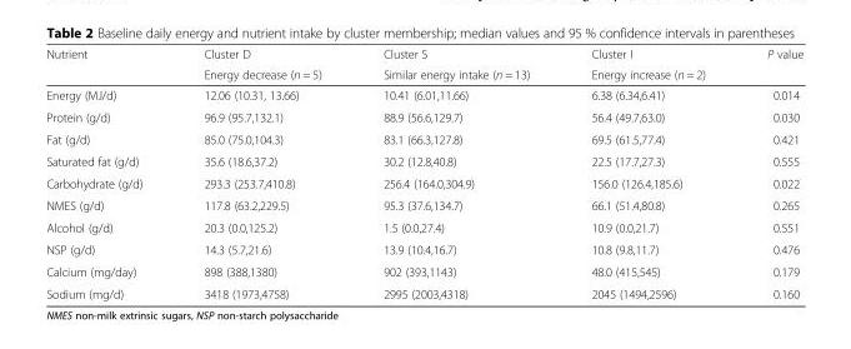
<table><thead><tr><td rowspan="2">Nutrient</td><td rowspan="2">Cluster D Energy decrease (n = 5)</td><td rowspan="2">Cluster S Similar energy intake (n = 13)</td><td rowspan="2">Cluster I Energy increase (n = 2)</td><td rowspan="2">P value</td></tr><tr></tr></thead><tbody><tr><td>Energy (MJ/d)</td><td>12.06 (10.31, 13.66)</td><td>10.41 (6.01,11.66)</td><td>6.38 (6.34,6.41)</td><td>0.014</td></tr><tr><td>Protein (g/d)</td><td>96.9 (95.7,132.1)</td><td>88.9 (56.6,129.7)</td><td>56.4 (49.7,63.0)</td><td>0.030</td></tr><tr><td>Fat (g/d)</td><td>85.0 (75.0,104.3)</td><td>83.1 (66.3,127.8)</td><td>69.5 (61.5,77.4)</td><td>0.421</td></tr><tr><td>Saturated fat (g/d)</td><td>35.6 (18.6,37.2)</td><td>30.2 (12.8,40.8)</td><td>22.5 (17.7,27.3)</td><td>0.555</td></tr><tr><td>Carbohydrate (g/d)</td><td>293.3 (253.7,410.8)</td><td>256.4 (164.0,304.9)</td><td>156.0 (126.4,185.6)</td><td>0.022</td></tr><tr><td>NMES (g/d)</td><td>117.8 (63.2,229.5)</td><td>95.3 (37.6,134.7)</td><td>66.1 (51.4,80.8)</td><td>0.265</td></tr><tr><td>Alcohol (g/d)</td><td>20.3 (0.0,125.2)</td><td>1.5 (0.0,27.4)</td><td>10.9 (0.0,21.7)</td><td>0.551</td></tr><tr><td>NSP (g/d)</td><td>14.3 (5.7,21.6)</td><td>13.9 (10.4,16.7)</td><td>10.8 (9.8,11.7)</td><td>0.476</td></tr><tr><td>Calcium (mg/day)</td><td>898 (388,1380)</td><td>902 (393,1143)</td><td>48.0 (415,545)</td><td>0.179</td></tr><tr><td>Sodium (mg/d)</td><td>3418 (1973,4758)</td><td>2995 (2003,4318)</td><td>2045 (1494,2596)</td><td>0.160</td></tr></tbody></table>